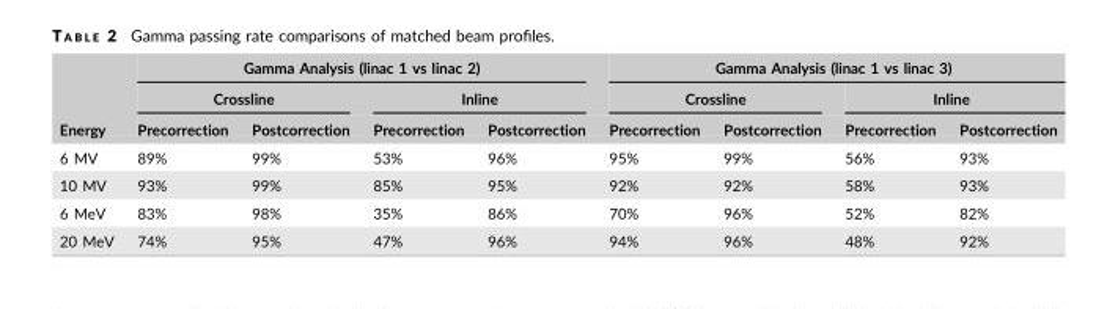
<table><thead><tr><td rowspan="3">Energy</td><td colspan="4">Gamma Analysis (linac 1 vs linac 2)</td><td colspan="4">Gamma Analysis (linac 1 vs linac 3)</td></tr><tr><td colspan="2">Crossline</td><td colspan="2">Inline</td><td colspan="2">Crossline</td><td colspan="2">Inline</td></tr><tr><td>Precorrection</td><td>Postcorrection</td><td>Precorrection</td><td>Postcorrection</td><td>Precorrection</td><td>Postcorrection</td><td>Precorrection</td><td>Postcorrection</td></tr></thead><tbody><tr><td>6 MV</td><td>89%</td><td>99%</td><td>53%</td><td>96%</td><td>95%</td><td>99%</td><td>56%</td><td>93%</td></tr><tr><td>10 MV</td><td>93%</td><td>99%</td><td>85%</td><td>95%</td><td>92%</td><td>92%</td><td>58%</td><td>93%</td></tr><tr><td>6 MeV</td><td>83%</td><td>98%</td><td>35%</td><td>86%</td><td>70%</td><td>96%</td><td>52%</td><td>82%</td></tr><tr><td>20 MeV</td><td>74%</td><td>95%</td><td>47%</td><td>96%</td><td>94%</td><td>96%</td><td>48%</td><td>92%</td></tr></tbody></table>